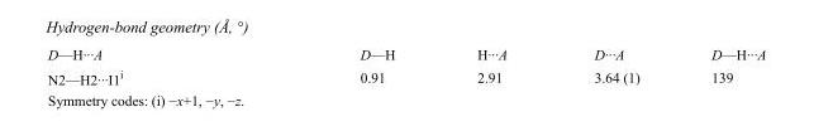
<table><tbody><tr><td>D—H···A</td><td>D—H</td><td>H···A</td><td>D···A</td><td>D—H···A</td></tr><tr><td>N2—H2···I1<sup>i</sup></td><td>0.91</td><td>2.91</td><td>3.64 (1)</td><td>139</td></tr></tbody></table>